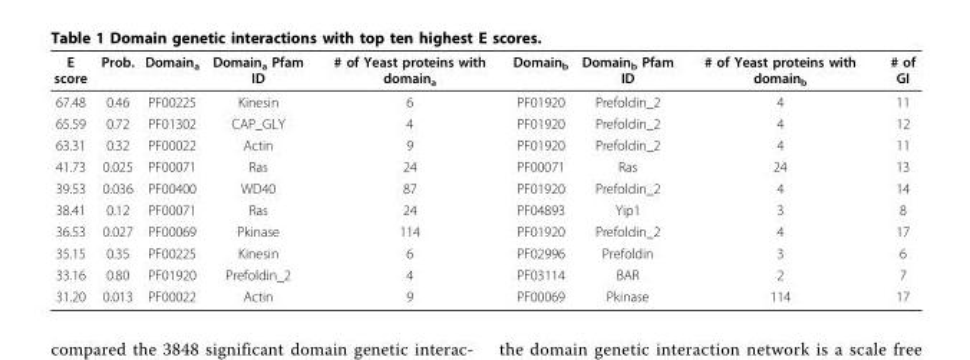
<table><thead><tr><td>E score</td><td>Prob.</td><td>Domain<sub>a</sub></td><td>Domain<sub>a</sub> Pfam ID</td><td># of Yeast proteins with domain<sub>a</sub></td><td>Domain<sub>b</sub></td><td>Domain<sub>b</sub> Pfam ID</td><td># of Yeast proteins with domain<sub>b</sub></td><td># of GI</td></tr></thead><tbody><tr><td>67.48</td><td>0.46</td><td>PF00225</td><td>Kinesin</td><td>6</td><td>PF01920</td><td>Prefoldin_2</td><td>4</td><td>11</td></tr><tr><td>65.59</td><td>0.72</td><td>PF01302</td><td>CAP_GLY</td><td>4</td><td>PF01920</td><td>Prefoldin_2</td><td>4</td><td>12</td></tr><tr><td>63.31</td><td>0.32</td><td>PF00022</td><td>Actin</td><td>9</td><td>PF01920</td><td>Prefoldin_2</td><td>4</td><td>11</td></tr><tr><td>41.73</td><td>0.025</td><td>PF00071</td><td>Ras</td><td>24</td><td>PF00071</td><td>Ras</td><td>24</td><td>13</td></tr><tr><td>39.53</td><td>0.036</td><td>PF00400</td><td>WD40</td><td>87</td><td>PF01920</td><td>Prefoldin_2</td><td>4</td><td>14</td></tr><tr><td>38.41</td><td>0.12</td><td>PF00071</td><td>Ras</td><td>24</td><td>PF04893</td><td>Yip1</td><td>3</td><td>8</td></tr><tr><td>36.53</td><td>0.027</td><td>PF00069</td><td>Pkinase</td><td>114</td><td>PF01920</td><td>Prefoldin_2</td><td>4</td><td>17</td></tr><tr><td>35.15</td><td>0.35</td><td>PF00225</td><td>Kinesin</td><td>6</td><td>PF02996</td><td>Prefoldin</td><td>3</td><td>6</td></tr><tr><td>33.16</td><td>0.80</td><td>PF01920</td><td>Prefoldin_2</td><td>4</td><td>PF03114</td><td>BAR</td><td>2</td><td>7</td></tr><tr><td>31.20</td><td>0.013</td><td>PF00022</td><td>Actin</td><td>9</td><td>PF00069</td><td>Pkinase</td><td>114</td><td>17</td></tr></tbody></table>